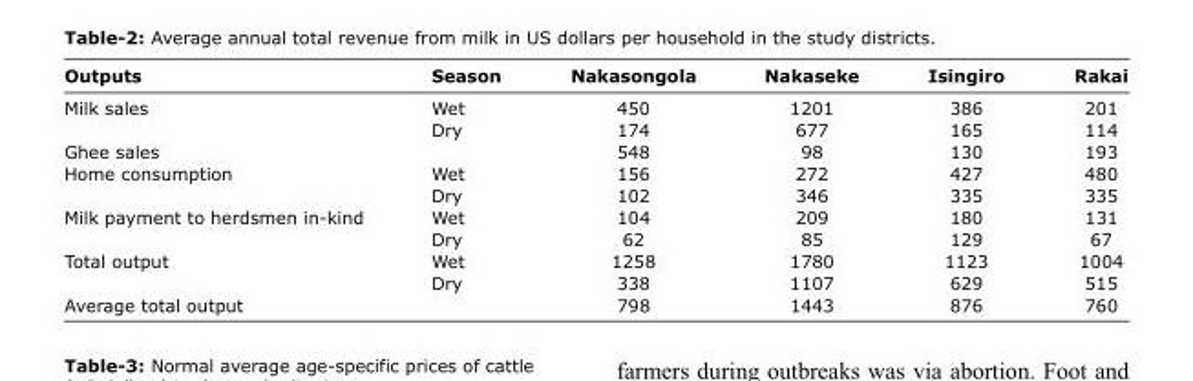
<table><thead><tr><td>Outputs</td><td>Season</td><td>Nakasongola</td><td>Nakaseke</td><td>Isingiro</td><td>Rakai</td></tr></thead><tbody><tr><td rowspan="2">Milk sales</td><td>Wet</td><td>450</td><td>1201</td><td>386</td><td>201</td></tr><tr><td>Dry</td><td>174</td><td>677</td><td>165</td><td>114</td></tr><tr><td>Ghee sales</td><td></td><td>548</td><td>98</td><td>130</td><td>193</td></tr><tr><td rowspan="2">Home consumption</td><td>Wet</td><td>156</td><td>272</td><td>427</td><td>480</td></tr><tr><td>Dry</td><td>102</td><td>346</td><td>335</td><td>335</td></tr><tr><td rowspan="2">Milk payment to herdsmen in-kind</td><td>Wet</td><td>104</td><td>209</td><td>180</td><td>131</td></tr><tr><td>Dry</td><td>62</td><td>85</td><td>129</td><td>67</td></tr><tr><td rowspan="2">Total output</td><td>Wet</td><td>1258</td><td>1780</td><td>1123</td><td>1004</td></tr><tr><td>Dry</td><td>338</td><td>1107</td><td>629</td><td>515</td></tr><tr><td>Average total output</td><td></td><td>798</td><td>1443</td><td>876</td><td>760</td></tr></tbody></table>